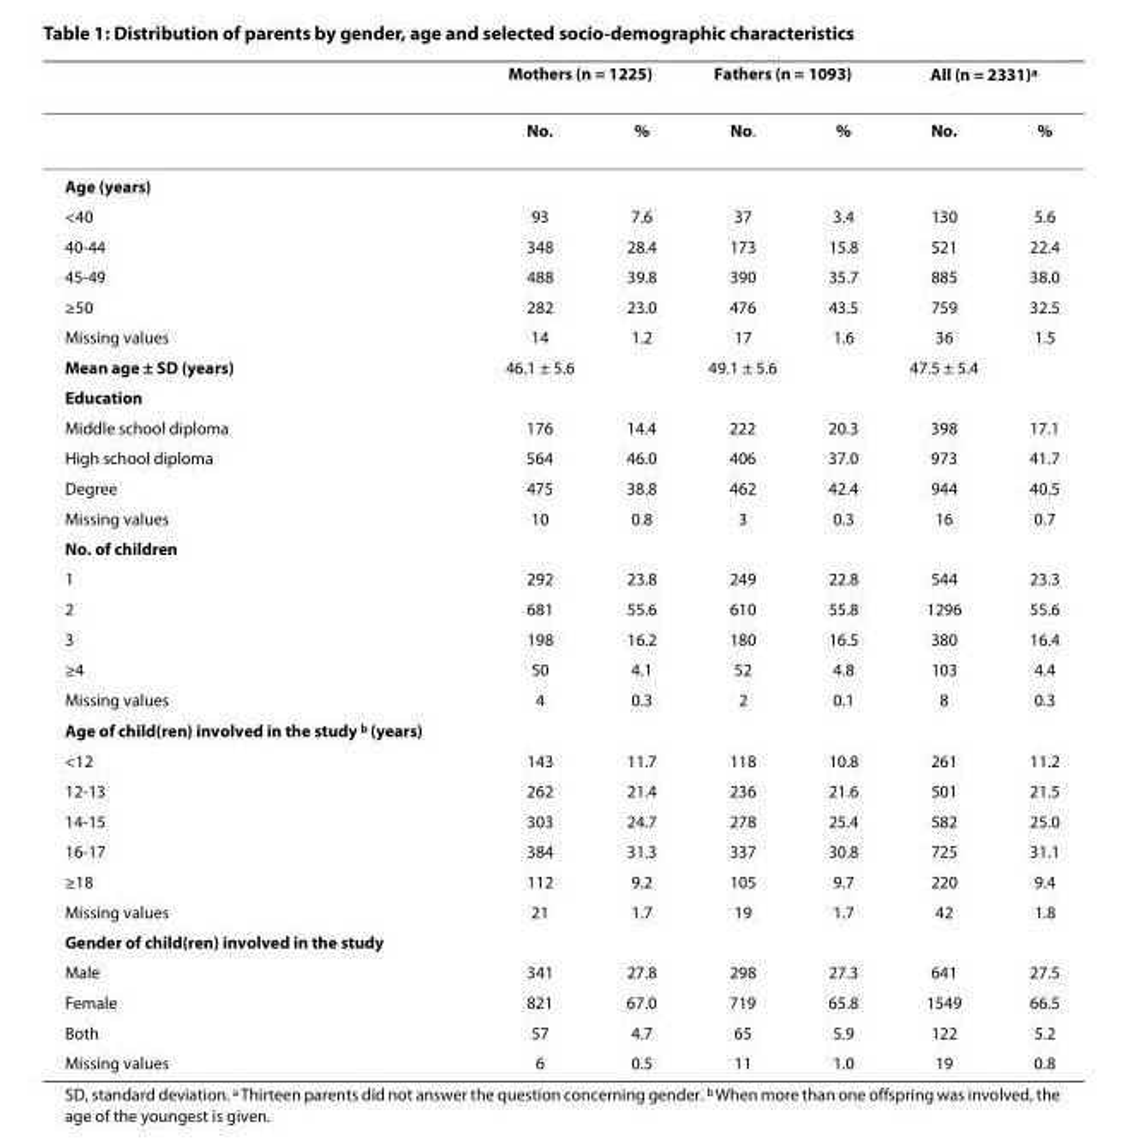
<table><thead><tr><td rowspan="2"></td><td colspan="2">Mothers (n = 1225)</td><td colspan="2">Fathers (n = 1093)</td><td colspan="2">All (n = 2331)<sup>a</sup></td></tr><tr><td>No.</td><td>%</td><td>No.</td><td>%</td><td>No.</td><td>%</td></tr></thead><tbody><tr><td colspan="7">Age (years)</td></tr><tr><td>&lt;40</td><td>93</td><td>7.6</td><td>37</td><td>3.4</td><td>130</td><td>5.6</td></tr><tr><td>40-44</td><td>348</td><td>28.4</td><td>173</td><td>15.8</td><td>521</td><td>22.4</td></tr><tr><td>45-49</td><td>488</td><td>39.8</td><td>390</td><td>35.7</td><td>885</td><td>38.0</td></tr><tr><td>≥50</td><td>282</td><td>23.0</td><td>476</td><td>43.5</td><td>759</td><td>32.5</td></tr><tr><td>Missing values</td><td>14</td><td>1.2</td><td>17</td><td>1.6</td><td>36</td><td>1.5</td></tr><tr><td>Mean age ± SD (years)</td><td>46.1 ± 5.6</td><td></td><td>49.1 ± 5.6</td><td></td><td>47.5 ± 5.4</td><td></td></tr><tr><td colspan="7">Education</td></tr><tr><td>Middle school diploma</td><td>176</td><td>14.4</td><td>222</td><td>20.3</td><td>398</td><td>17.1</td></tr><tr><td>High school diploma</td><td>564</td><td>46.0</td><td>406</td><td>37.0</td><td>973</td><td>41.7</td></tr><tr><td>Degree</td><td>475</td><td>38.8</td><td>462</td><td>42.4</td><td>944</td><td>40.5</td></tr><tr><td>Missing values</td><td>10</td><td>0.8</td><td>3</td><td>0.3</td><td>16</td><td>0.7</td></tr><tr><td colspan="7">No. of children</td></tr><tr><td>1</td><td>292</td><td>23.8</td><td>249</td><td>22.8</td><td>544</td><td>23.3</td></tr><tr><td>2</td><td>681</td><td>55.6</td><td>610</td><td>55.8</td><td>1296</td><td>55.6</td></tr><tr><td>3</td><td>198</td><td>16.2</td><td>180</td><td>16.5</td><td>380</td><td>16.4</td></tr><tr><td>≥4</td><td>50</td><td>4.1</td><td>52</td><td>4.8</td><td>103</td><td>4.4</td></tr><tr><td>Missing values</td><td>4</td><td>0.3</td><td>2</td><td>0.1</td><td>8</td><td>0.3</td></tr><tr><td colspan="7">Age of child(ren) involved in the study <sup>b</sup> (years)</td></tr><tr><td>&lt;12</td><td>143</td><td>11.7</td><td>118</td><td>10.8</td><td>261</td><td>11.2</td></tr><tr><td>12-13</td><td>262</td><td>21.4</td><td>236</td><td>21.6</td><td>501</td><td>21.5</td></tr><tr><td>14-15</td><td>303</td><td>24.7</td><td>278</td><td>25.4</td><td>582</td><td>25.0</td></tr><tr><td>16-17</td><td>384</td><td>31.3</td><td>337</td><td>30.8</td><td>725</td><td>31.1</td></tr><tr><td>≥18</td><td>112</td><td>9.2</td><td>105</td><td>9.7</td><td>220</td><td>9.4</td></tr><tr><td>Missing values</td><td>21</td><td>1.7</td><td>19</td><td>1.7</td><td>42</td><td>1.8</td></tr><tr><td colspan="7">Gender of child(ren) involved in the study</td></tr><tr><td>Male</td><td>341</td><td>27.8</td><td>298</td><td>27.3</td><td>641</td><td>27.5</td></tr><tr><td>Female</td><td>821</td><td>67.0</td><td>719</td><td>65.8</td><td>1549</td><td>66.5</td></tr><tr><td>Both</td><td>57</td><td>4.7</td><td>65</td><td>5.9</td><td>122</td><td>5.2</td></tr><tr><td>Missing values</td><td>6</td><td>0.5</td><td>11</td><td>1.0</td><td>19</td><td>0.8</td></tr></tbody></table>